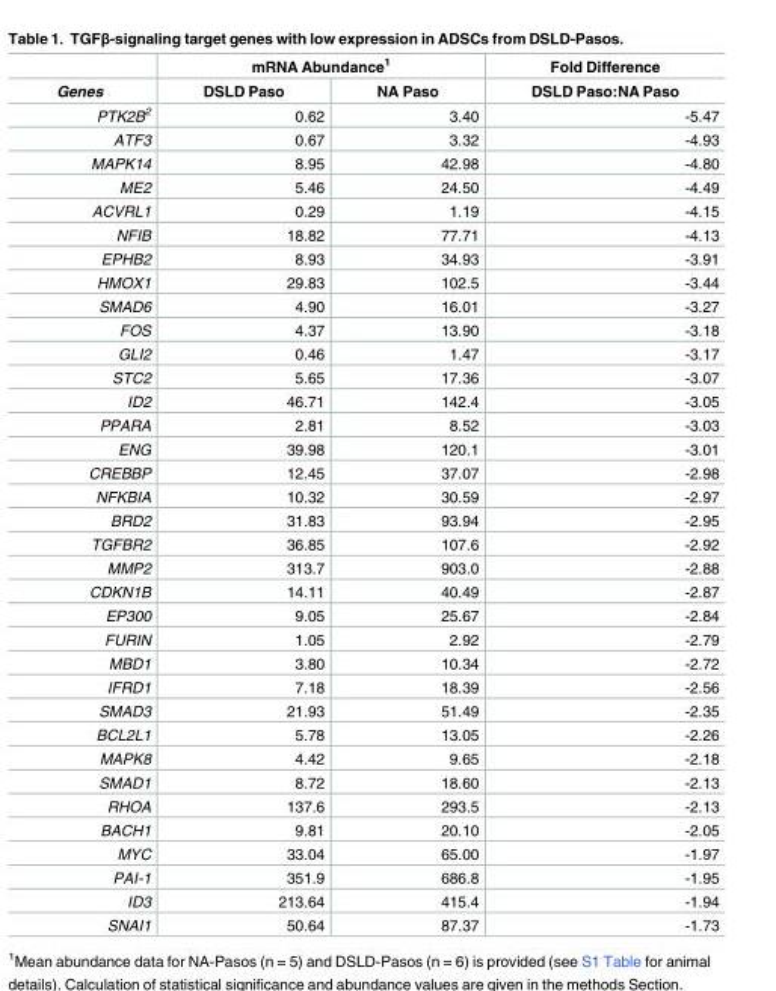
<table><thead><tr><td rowspan="2">Genes</td><td colspan="2">mRNA Abundance<sup>1</sup></td><td rowspan="2">Fold Difference DSLD Paso:NA Paso</td></tr><tr><td>DSLD Paso</td><td>NA Paso</td></tr></thead><tbody><tr><td>PTK2B<sup>2</sup></td><td>0.62</td><td>3.40</td><td>-5.47</td></tr><tr><td>ATF3</td><td>0.67</td><td>3.32</td><td>-4.93</td></tr><tr><td>MAPK14</td><td>8.95</td><td>42.98</td><td>-4.80</td></tr><tr><td>ME2</td><td>5.46</td><td>24.50</td><td>-4.49</td></tr><tr><td>ACVRL1</td><td>0.29</td><td>1.19</td><td>-4.15</td></tr><tr><td>NFIB</td><td>18.82</td><td>77.71</td><td>-4.13</td></tr><tr><td>EPHB2</td><td>8.93</td><td>34.93</td><td>-3.91</td></tr><tr><td>HMOX1</td><td>29.83</td><td>102.5</td><td>-3.44</td></tr><tr><td>SMAD6</td><td>4.90</td><td>16.01</td><td>-3.27</td></tr><tr><td>FOS</td><td>4.37</td><td>13.90</td><td>-3.18</td></tr><tr><td>GLI2</td><td>0.46</td><td>1.47</td><td>-3.17</td></tr><tr><td>STC2</td><td>5.65</td><td>17.36</td><td>-3.07</td></tr><tr><td>ID2</td><td>46.71</td><td>142.4</td><td>-3.05</td></tr><tr><td>PPARA</td><td>2.81</td><td>8.52</td><td>-3.03</td></tr><tr><td>ENG</td><td>39.98</td><td>120.1</td><td>-3.01</td></tr><tr><td>CREBBP</td><td>12.45</td><td>37.07</td><td>-2.98</td></tr><tr><td>NFKBIA</td><td>10.32</td><td>30.59</td><td>-2.97</td></tr><tr><td>BRD2</td><td>31.83</td><td>93.94</td><td>-2.95</td></tr><tr><td>TGFBR2</td><td>36.85</td><td>107.6</td><td>-2.92</td></tr><tr><td>MMP2</td><td>313.7</td><td>903.0</td><td>-2.88</td></tr><tr><td>CDKN1B</td><td>14.11</td><td>40.49</td><td>-2.87</td></tr><tr><td>EP300</td><td>9.05</td><td>25.67</td><td>-2.84</td></tr><tr><td>FURIN</td><td>1.05</td><td>2.92</td><td>-2.79</td></tr><tr><td>MBD1</td><td>3.80</td><td>10.34</td><td>-2.72</td></tr><tr><td>IFRD1</td><td>7.18</td><td>18.39</td><td>-2.56</td></tr><tr><td>SMAD3</td><td>21.93</td><td>51.49</td><td>-2.35</td></tr><tr><td>BCL2L1</td><td>5.78</td><td>13.05</td><td>-2.26</td></tr><tr><td>MAPK8</td><td>4.42</td><td>9.65</td><td>-2.18</td></tr><tr><td>SMAD1</td><td>8.72</td><td>18.60</td><td>-2.13</td></tr><tr><td>RHOA</td><td>137.6</td><td>293.5</td><td>-2.13</td></tr><tr><td>BACH1</td><td>9.81</td><td>20.10</td><td>-2.05</td></tr><tr><td>MYC</td><td>33.04</td><td>65.00</td><td>-1.97</td></tr><tr><td>PAI-1</td><td>351.9</td><td>686.8</td><td>-1.95</td></tr><tr><td>ID3</td><td>213.64</td><td>415.4</td><td>-1.94</td></tr><tr><td>SNAI1</td><td>50.64</td><td>87.37</td><td>-1.73</td></tr></tbody></table>